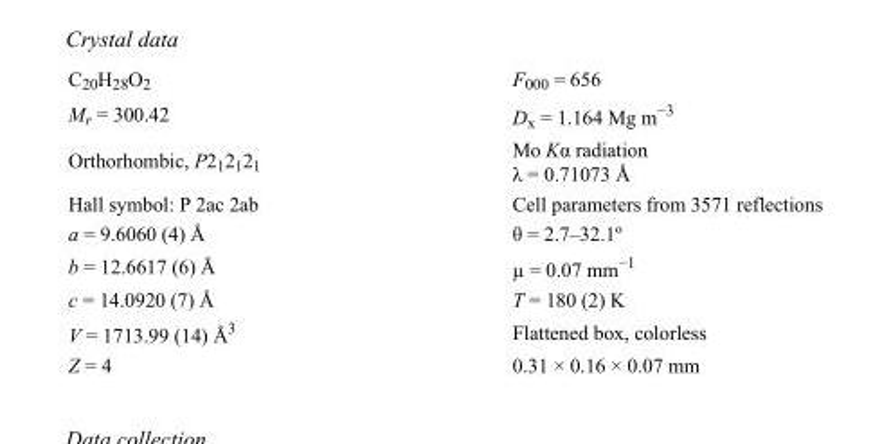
<table><tbody><tr><td>C<sub>20</sub>H<sub>28</sub>O<sub>2</sub></td><td>F<sub>000</sub> = 656</td></tr><tr><td>M<sub>r</sub> = 300.42</td><td>D<sub>x</sub> = 1.164 Mg m<sup>−3</sup></td></tr><tr><td>Orthorhombic, P2<sub>1</sub>2<sub>1</sub>2<sub>1</sub></td><td>Mo Kα radiation λ = 0.71073 Å</td></tr><tr><td>Hall symbol: P 2ac 2ab</td><td>Cell parameters from 3571 reflections</td></tr><tr><td>a = 9.6060 (4) Å</td><td>θ = 2.7–32.1º</td></tr><tr><td>b = 12.6617 (6) Å</td><td>µ = 0.07 mm<sup>−1</sup></td></tr><tr><td>c = 14.0920 (7) Å</td><td>T = 180 (2) K</td></tr><tr><td>V = 1713.99 (14) Å<sup>3</sup></td><td>Flattened box, colorless</td></tr><tr><td>Z = 4</td><td>0.31 × 0.16 × 0.07 mm</td></tr></tbody></table>